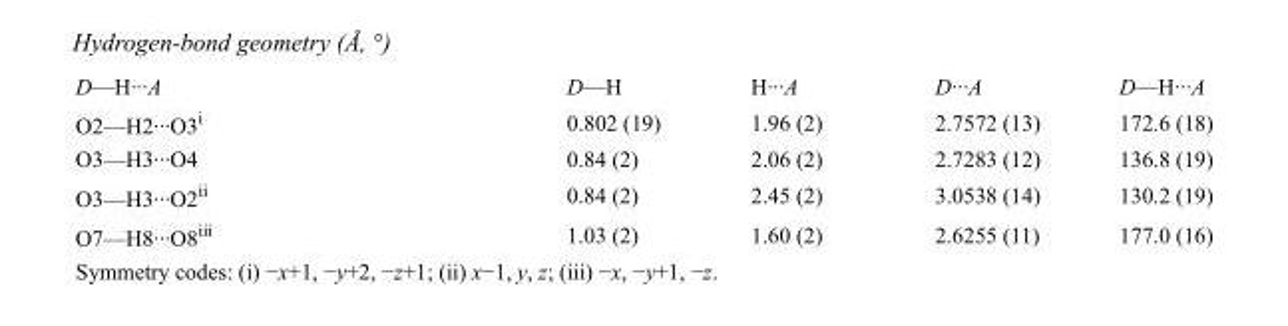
<table><tbody><tr><td>D—H···A</td><td>D—H</td><td>H···A</td><td>D···A</td><td>D—H···A</td></tr><tr><td>O2—H2···O3<sup>i</sup></td><td>0.802 (19)</td><td>1.96 (2)</td><td>2.7572 (13)</td><td>172.6 (18)</td></tr><tr><td>O3—H3···O4</td><td>0.84 (2)</td><td>2.06 (2)</td><td>2.7283 (12)</td><td>136.8 (19)</td></tr><tr><td>O3—H3···O2<sup>ii</sup></td><td>0.84 (2)</td><td>2.45 (2)</td><td>3.0538 (14)</td><td>130.2 (19)</td></tr><tr><td>O7—H8···O8<sup>iii</sup></td><td>1.03 (2)</td><td>1.60 (2)</td><td>2.6255 (11)</td><td>177.0 (16)</td></tr></tbody></table>